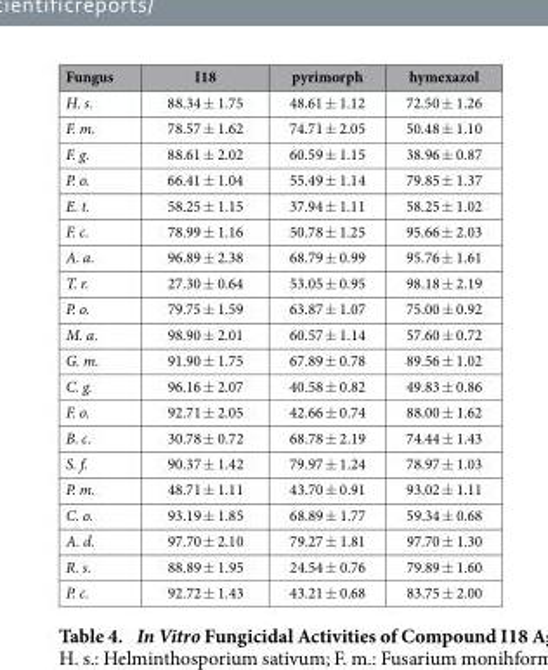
<table><thead><tr><td>Fungus</td><td>I18</td><td>pyrimorph</td><td>hymexazol</td></tr></thead><tbody><tr><td>H. s.</td><td>88.34 ± 1.75</td><td>48.61 ± 1.12</td><td>72.50 ± 1.26</td></tr><tr><td>F. m.</td><td>78.57 ± 1.62</td><td>74.71 ± 2.05</td><td>50.48 ± 1.10</td></tr><tr><td>F. g.</td><td>88.61 ± 2.02</td><td>60.59 ± 1.15</td><td>38.96 ± 0.87</td></tr><tr><td>P. o.</td><td>66.41 ± 1.04</td><td>55.49 ± 1.14</td><td>79.85 ± 1.37</td></tr><tr><td>E. t.</td><td>58.25 ± 1.15</td><td>37.94 ± 1.11</td><td>58.25 ± 1.02</td></tr><tr><td>F. c.</td><td>78.99 ± 1.16</td><td>50.78 ± 1.25</td><td>95.66 ± 2.03</td></tr><tr><td>A. a.</td><td>96.89 ± 2.38</td><td>68.79 ± 0.99</td><td>95.76 ± 1.61</td></tr><tr><td>T. r.</td><td>27.30 ± 0.64</td><td>53.05 ± 0.95</td><td>98.18 ± 2.19</td></tr><tr><td>P. o.</td><td>79.75 ± 1.59</td><td>63.87 ± 1.07</td><td>75.00 ± 0.92</td></tr><tr><td>M. a.</td><td>98.90 ± 2.01</td><td>60.57 ± 1.14</td><td>57.60 ± 0.72</td></tr><tr><td>G. m.</td><td>91.90 ± 1.75</td><td>67.89 ± 0.78</td><td>89.56 ± 1.02</td></tr><tr><td>C. g.</td><td>96.16 ± 2.07</td><td>40.58 ± 0.82</td><td>49.83 ± 0.86</td></tr><tr><td>F. o.</td><td>92.71 ± 2.05</td><td>42.66 ± 0.74</td><td>88.00 ± 1.62</td></tr><tr><td>B. c.</td><td>30.78 ± 0.72</td><td>68.78 ± 2.19</td><td>74.44 ± 1.43</td></tr><tr><td>S. f.</td><td>90.37 ± 1.42</td><td>79.97 ± 1.24</td><td>78.97 ± 1.03</td></tr><tr><td>P. m.</td><td>48.71 ± 1.11</td><td>43.70 ± 0.91</td><td>93.02 ± 1.11</td></tr><tr><td>C. o.</td><td>93.19 ± 1.85</td><td>68.89 ± 1.77</td><td>59.34 ± 0.68</td></tr><tr><td>A. d.</td><td>97.70 ± 2.10</td><td>79.27 ± 1.81</td><td>97.70 ± 1.30</td></tr><tr><td>R. s.</td><td>88.89 ± 1.95</td><td>24.54 ± 0.76</td><td>79.89 ± 1.60</td></tr><tr><td>P. c.</td><td>92.72 ± 1.43</td><td>43.21 ± 0.68</td><td>83.75 ± 2.00</td></tr></tbody></table>